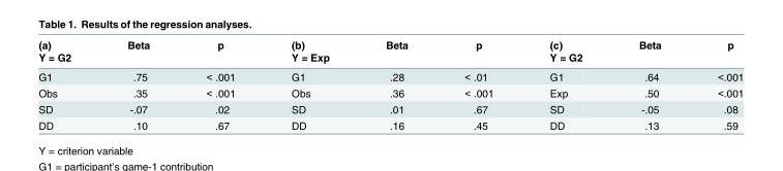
<table><thead><tr><td rowspan="2">(a) Y = G2</td><td rowspan="2">Beta</td><td rowspan="2">p</td><td rowspan="2">(b) Y = Exp</td><td rowspan="2">Beta</td><td rowspan="2">p</td><td rowspan="2">(c) Y = G2</td><td rowspan="2">Beta</td><td rowspan="2">p</td></tr><tr></tr></thead><tbody><tr><td>G1</td><td>.75</td><td>&lt; .001</td><td>G1</td><td>.28</td><td>&lt; .01</td><td>G1</td><td>.64</td><td>&lt;.001</td></tr><tr><td>Obs</td><td>.35</td><td>&lt; .001</td><td>Obs</td><td>.36</td><td>&lt; .001</td><td>Exp</td><td>.50</td><td>&lt;.001</td></tr><tr><td>SD</td><td>-.07</td><td>.02</td><td>SD</td><td>.01</td><td>.67</td><td>SD</td><td>-.05</td><td>.08</td></tr><tr><td>DD</td><td>.10</td><td>.67</td><td>DD</td><td>.16</td><td>.45</td><td>DD</td><td>.13</td><td>.59</td></tr></tbody></table>